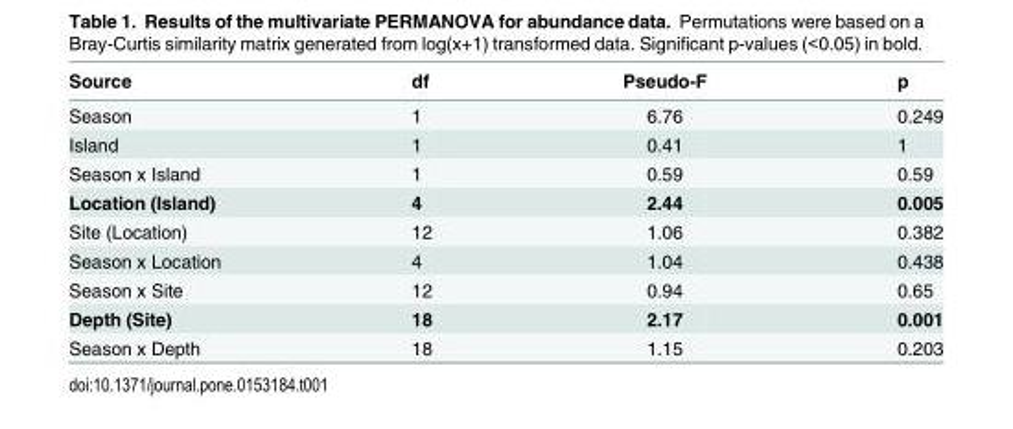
<table><thead><tr><td>Source</td><td>df</td><td>Pseudo-F</td><td>p</td></tr></thead><tbody><tr><td>Season</td><td>1</td><td>6.76</td><td>0.249</td></tr><tr><td>Island</td><td>1</td><td>0.41</td><td>1</td></tr><tr><td>Season x Island</td><td>1</td><td>0.59</td><td>0.59</td></tr><tr><td>Location (Island)</td><td>4</td><td>2.44</td><td>0.005</td></tr><tr><td>Site (Location)</td><td>12</td><td>1.06</td><td>0.382</td></tr><tr><td>Season x Location</td><td>4</td><td>1.04</td><td>0.438</td></tr><tr><td>Season x Site</td><td>12</td><td>0.94</td><td>0.65</td></tr><tr><td>Depth (Site)</td><td>18</td><td>2.17</td><td>0.001</td></tr><tr><td>Season x Depth</td><td>18</td><td>1.15</td><td>0.203</td></tr></tbody></table>